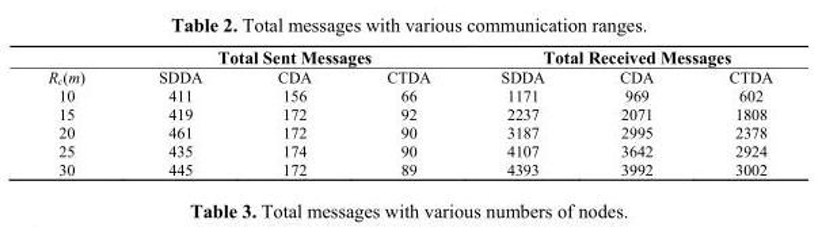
<table><thead><tr><td rowspan="2">R<sub>c</sub>(m)</td><td colspan="3">Total Sent Messages</td><td colspan="3">Total Received Messages</td></tr><tr><td>SDDA</td><td>CDA</td><td>CTDA</td><td>SDDA</td><td>CDA</td><td>CTDA</td></tr></thead><tbody><tr><td>10</td><td>411</td><td>156</td><td>66</td><td>1171</td><td>969</td><td>602</td></tr><tr><td>15</td><td>419</td><td>172</td><td>92</td><td>2237</td><td>2071</td><td>1808</td></tr><tr><td>20</td><td>461</td><td>172</td><td>90</td><td>3187</td><td>2995</td><td>2378</td></tr><tr><td>25</td><td>435</td><td>174</td><td>90</td><td>4107</td><td>3642</td><td>2924</td></tr><tr><td>30</td><td>445</td><td>172</td><td>89</td><td>4393</td><td>3992</td><td>3002</td></tr></tbody></table>